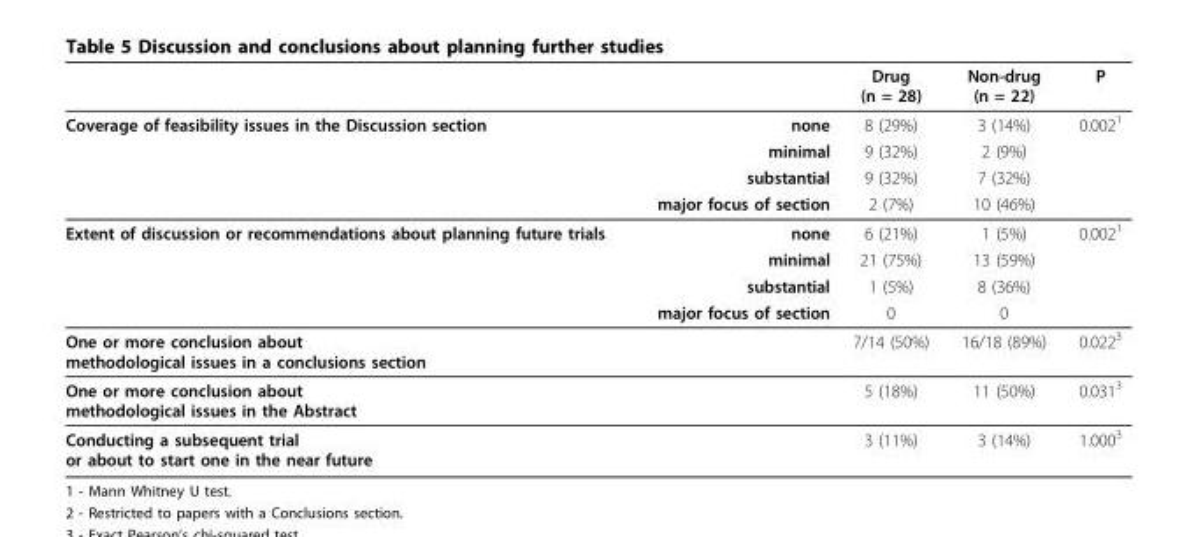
<table><thead><tr><td></td><td></td><td>Drug (n = 28)</td><td>Non-drug (n = 22)</td><td>P</td></tr></thead><tbody><tr><td rowspan="4">Coverage of feasibility issues in the Discussion section</td><td>none</td><td>8 (29%)</td><td>3 (14%)</td><td>0.002<sup>1</sup></td></tr><tr><td>minimal</td><td>9 (32%)</td><td>2 (9%)</td><td></td></tr><tr><td>substantial</td><td>9 (32%)</td><td>7 (32%)</td><td></td></tr><tr><td>major focus of section</td><td>2 (7%)</td><td>10 (46%)</td><td></td></tr><tr><td rowspan="4">Extent of discussion or recommendations about planning future trials</td><td>none</td><td>6 (21%)</td><td>1 (5%)</td><td>0.002<sup>1</sup></td></tr><tr><td>minimal</td><td>21 (75%)</td><td>13 (59%)</td><td></td></tr><tr><td>substantial</td><td>1 (5%)</td><td>8 (36%)</td><td></td></tr><tr><td>major focus of section</td><td>0</td><td>0</td><td></td></tr><tr><td colspan="2">One or more conclusion about methodological issues in a conclusions section</td><td>7/14 (50%)</td><td>16/18 (89%)</td><td>0.022<sup>3</sup></td></tr><tr><td colspan="2">One or more conclusion about methodological issues in the Abstract</td><td>5 (18%)</td><td>11 (50%)</td><td>0.031<sup>3</sup></td></tr><tr><td colspan="2">Conducting a subsequent trial or about to start one in the near future</td><td>3 (11%)</td><td>3 (14%)</td><td>1.000<sup>3</sup></td></tr></tbody></table>